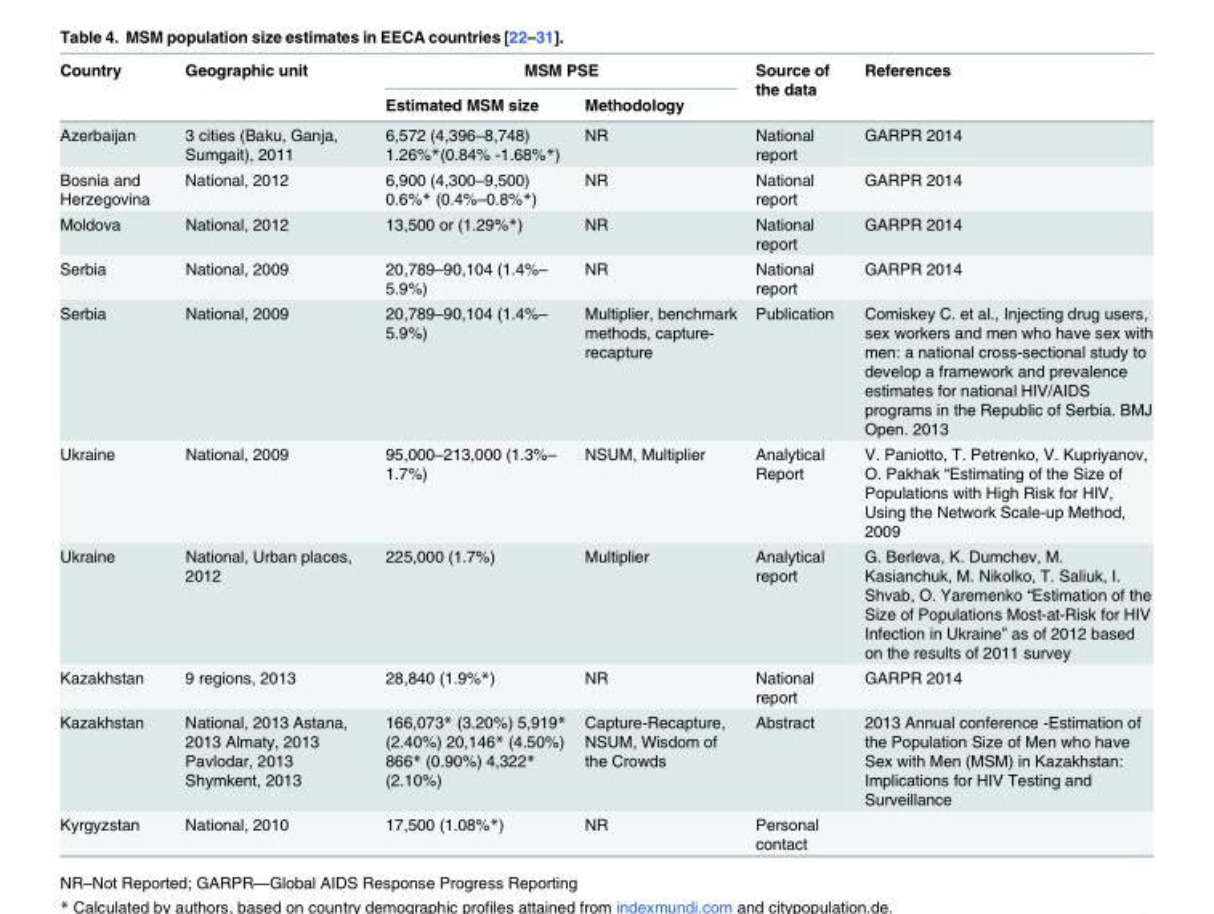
<table><thead><tr><td rowspan="2">Country</td><td rowspan="2">Geographic unit</td><td colspan="2">MSM PSE</td><td rowspan="2">Source of the data</td><td rowspan="2">References</td></tr><tr><td>Estimated MSM size</td><td>Methodology</td></tr></thead><tbody><tr><td>Azerbaijan</td><td>3 cities (Baku, Ganja, Sumgait), 2011</td><td>6,572 (4,396–8,748) 1.26%*(0.84% -1.68%*)</td><td>NR</td><td>National report</td><td>GARPR 2014</td></tr><tr><td>Bosnia and Herzegovina</td><td>National, 2012</td><td>6,900 (4,300–9,500) 0.6%* (0.4%–0.8%*)</td><td>NR</td><td>National report</td><td>GARPR 2014</td></tr><tr><td>Moldova</td><td>National, 2012</td><td>13,500 or (1.29%*)</td><td>NR</td><td>National report</td><td>GARPR 2014</td></tr><tr><td>Serbia</td><td>National, 2009</td><td>20,789–90,104 (1.4%– 5.9%)</td><td>NR</td><td>National report</td><td>GARPR 2014</td></tr><tr><td>Serbia</td><td>National, 2009</td><td>20,789–90,104 (1.4%– 5.9%)</td><td>Multiplier, benchmark methods, capture- recapture</td><td>Publication</td><td>Comiskey C. et al., Injecting drug users, sex workers and men who have sex with men: a national cross-sectional study to develop a framework and prevalence estimates for national HIV/AIDS programs in the Republic of Serbia. BMJ Open. 2013</td></tr><tr><td>Ukraine</td><td>National, 2009</td><td>95,000–213,000 (1.3%– 1.7%)</td><td>NSUM, Multiplier</td><td>Analytical Report</td><td>V. Paniotto, T. Petrenko, V. Kupriyanov, O. Pakhak “Estimating of the Size of Populations with High Risk for HIV, Using the Network Scale-up Method, 2009</td></tr><tr><td>Ukraine</td><td>National, Urban places, 2012</td><td>225,000 (1.7%)</td><td>Multiplier</td><td>Analytical report</td><td>G. Berleva, K. Dumchev, M. Kasianchuk, M. Nikolko, T. Saliuk, I. Shvab, O. Yaremenko “Estimation of the Size of Populations Most-at-Risk for HIV Infection in Ukraine” as of 2012 based on the results of 2011 survey</td></tr><tr><td>Kazakhstan</td><td>9 regions, 2013</td><td>28,840 (1.9%*)</td><td>NR</td><td>National report</td><td>GARPR 2014</td></tr><tr><td>Kazakhstan</td><td>National, 2013 Astana, 2013 Almaty, 2013 Pavlodar, 2013 Shymkent, 2013</td><td>166,073* (3.20%) 5,919* (2.40%) 20,146* (4.50%) 866* (0.90%) 4,322* (2.10%)</td><td>Capture-Recapture, NSUM, Wisdom of the Crowds</td><td>Abstract</td><td>2013 Annual conference -Estimation of the Population Size of Men who have Sex with Men (MSM) in Kazakhstan: Implications for HIV Testing and Surveillance</td></tr><tr><td>Kyrgyzstan</td><td>National, 2010</td><td>17,500 (1.08%*)</td><td>NR</td><td>Personal contact</td><td></td></tr></tbody></table>